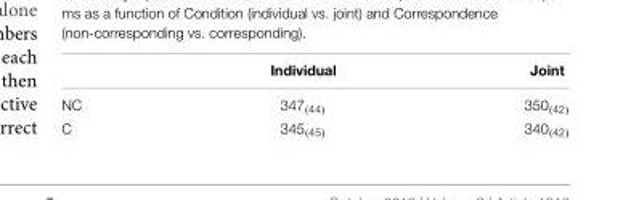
<table><thead><tr><td></td><td>Individual</td><td>Joint</td></tr></thead><tbody><tr><td>NC</td><td>347<sub>(44)</sub></td><td>350<sub>(42)</sub></td></tr><tr><td>C</td><td>345<sub>(45)</sub></td><td>340<sub>(42)</sub></td></tr></tbody></table>